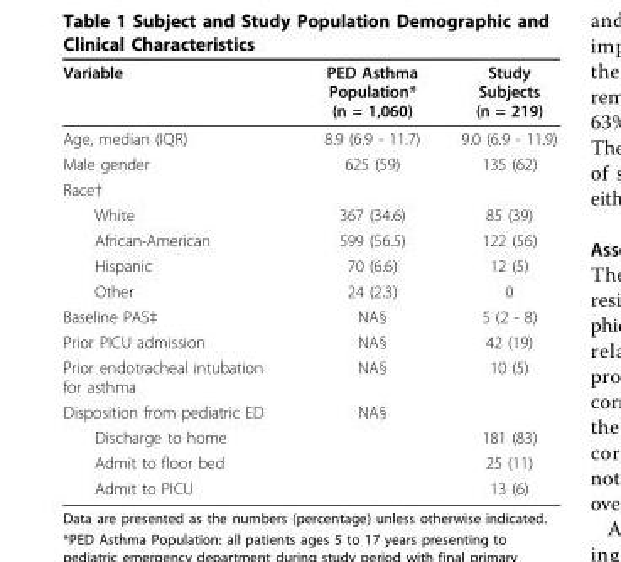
<table><thead><tr><td>Variable</td><td>PED Asthma Population* (n = 1,060)</td><td>Study Subjects (n = 219)</td></tr></thead><tbody><tr><td>Age, median (IQR)</td><td>8.9 (6.9 - 11.7)</td><td>9.0 (6.9 - 11.9)</td></tr><tr><td>Male gender</td><td>625 (59)</td><td>135 (62)</td></tr><tr><td colspan="3">Race†</td></tr><tr><td>White</td><td>367 (34.6)</td><td>85 (39)</td></tr><tr><td>African-American</td><td>599 (56.5)</td><td>122 (56)</td></tr><tr><td>Hispanic</td><td>70 (6.6)</td><td>12 (5)</td></tr><tr><td>Other</td><td>24 (2.3)</td><td>0</td></tr><tr><td>Baseline PAS‡</td><td>NA§</td><td>5 (2 - 8)</td></tr><tr><td>Prior PICU admission</td><td>NA§</td><td>42 (19)</td></tr><tr><td>Prior endotracheal intubation for asthma</td><td>NA§</td><td>10 (5)</td></tr><tr><td>Disposition from pediatric ED</td><td>NA§</td><td></td></tr><tr><td>Discharge to home</td><td></td><td>181 (83)</td></tr><tr><td>Admit to floor bed</td><td></td><td>25 (11)</td></tr><tr><td>Admit to PICU</td><td></td><td>13 (6)</td></tr></tbody></table>